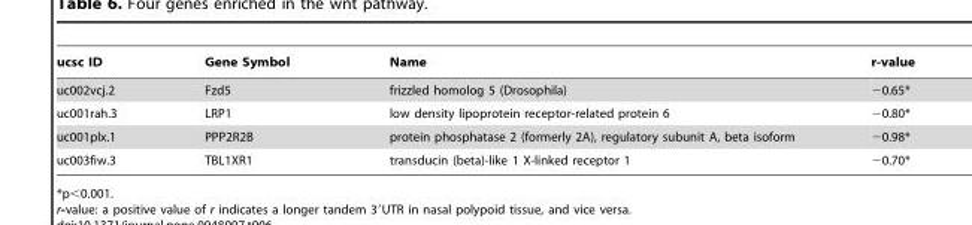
<table><thead><tr><td>ucsc ID</td><td>Gene Symbol</td><td>Name</td><td>r-value</td></tr></thead><tbody><tr><td>uc002vcj.2</td><td>Fzd5</td><td>frizzled homolog 5 (Drosophila)</td><td>−0.65*</td></tr><tr><td>uc001rah.3</td><td>LRP1</td><td>low density lipoprotein receptor-related protein 6</td><td>−0.80*</td></tr><tr><td>uc001plx.1</td><td>PPP2R2B</td><td>protein phosphatase 2 (formerly 2A), regulatory subunit A, beta isoform</td><td>−0.98*</td></tr><tr><td>uc003fiw.3</td><td>TBL1XR1</td><td>transducin (beta)-like 1 X-linked receptor 1</td><td>−0.70*</td></tr></tbody></table>